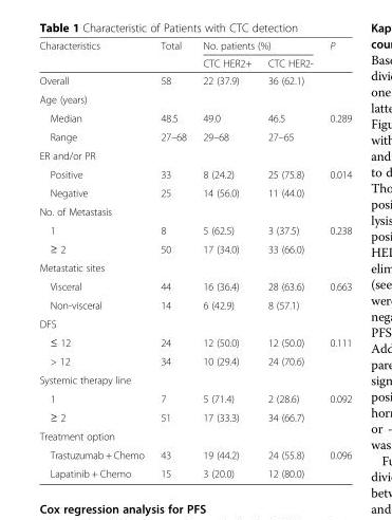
<table><thead><tr><td rowspan="2">Characteristics</td><td rowspan="2">Total</td><td colspan="2">No. patients (%)</td><td rowspan="2">P</td></tr><tr><td>CTC HER2+</td><td>CTC HER2-</td></tr></thead><tbody><tr><td>Overall</td><td>58</td><td>22 (37.9)</td><td>36 (62.1)</td><td></td></tr><tr><td colspan="5">Age (years)</td></tr><tr><td>Median</td><td>48.5</td><td>49.0</td><td>46.5</td><td rowspan="2">0.289</td></tr><tr><td>Range</td><td>27–68</td><td>29–68</td><td>27–65</td></tr><tr><td colspan="5">ER and/or PR</td></tr><tr><td>Positive</td><td>33</td><td>8 (24.2)</td><td>25 (75.8)</td><td rowspan="2">0.014</td></tr><tr><td>Negative</td><td>25</td><td>14 (56.0)</td><td>11 (44.0)</td></tr><tr><td colspan="5">No. of Metastasis</td></tr><tr><td>1</td><td>8</td><td>5 (62.5)</td><td>3 (37.5)</td><td rowspan="2">0.238</td></tr><tr><td>≥ 2</td><td>50</td><td>17 (34.0)</td><td>33 (66.0)</td></tr><tr><td colspan="5">Metastatic sites</td></tr><tr><td>Visceral</td><td>44</td><td>16 (36.4)</td><td>28 (63.6)</td><td rowspan="2">0.663</td></tr><tr><td>Non-visceral</td><td>14</td><td>6 (42.9)</td><td>8 (57.1)</td></tr><tr><td colspan="5">DFS</td></tr><tr><td>≤ 12</td><td>24</td><td>12 (50.0)</td><td>12 (50.0)</td><td rowspan="2">0.111</td></tr><tr><td>&gt; 12</td><td>34</td><td>10 (29.4)</td><td>24 (70.6)</td></tr><tr><td colspan="5">Systemic therapy line</td></tr><tr><td>1</td><td>7</td><td>5 (71.4)</td><td>2 (28.6)</td><td rowspan="2">0.092</td></tr><tr><td>≥ 2</td><td>51</td><td>17 (33.3)</td><td>34 (66.7)</td></tr><tr><td colspan="5">Treatment option</td></tr><tr><td>Trastuzumab + Chemo</td><td>43</td><td>19 (44.2)</td><td>24 (55.8)</td><td rowspan="2">0.096</td></tr><tr><td>Lapatinib + Chemo</td><td>15</td><td>3 (20.0)</td><td>12 (80.0)</td></tr></tbody></table>